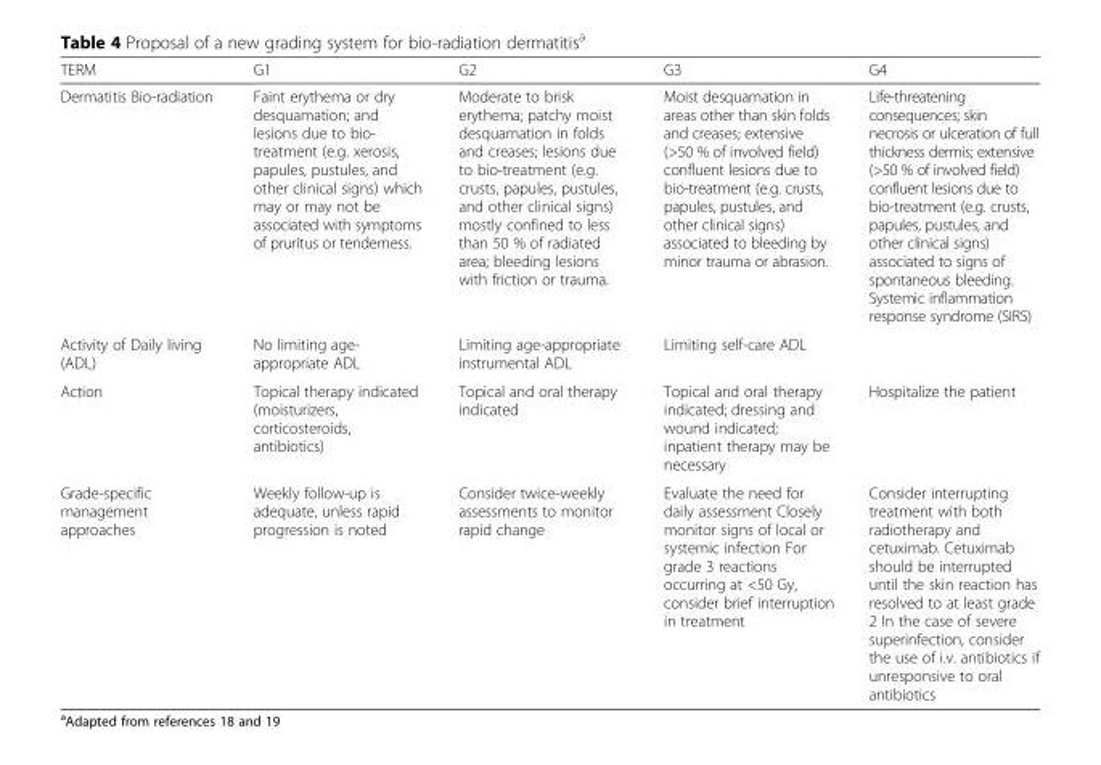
<table><thead><tr><td>TERM</td><td>G1</td><td>G2</td><td>G3</td><td>G4</td></tr></thead><tbody><tr><td>Dermatitis Bio-radiation</td><td>Faint erythema or dry desquamation; and lesions due to bio- treatment (e.g. xerosis, papules, pustules, and other clinical signs) which may or may not be associated with symptoms of pruritus or tenderness.</td><td>Moderate to brisk erythema; patchy moist desquamation in folds and creases; lesions due to bio-treatment (e.g. crusts, papules, pustules, and other clinical signs) mostly confined to less than 50 % of radiated area; bleeding lesions with friction or trauma.</td><td>Moist desquamation in areas other than skin folds and creases; extensive (&gt;50 % of involved field) confluent lesions due to bio-treatment (e.g. crusts, papules, pustules, and other clinical signs) associated to bleeding by minor trauma or abrasion.</td><td>Life-threatening consequences; skin necrosis or ulceration of full thickness dermis; extensive (&gt;50 % of involved field) confluent lesions due to bio-treatment (e.g. crusts, papules, pustules, and other clinical signs) associated to signs of spontaneous bleeding. Systemic inflammation response syndrome (SIRS)</td></tr><tr><td>Activity of Daily living (ADL)</td><td>No limiting age- appropriate ADL</td><td>Limiting age-appropriate instrumental ADL</td><td>Limiting self-care ADL</td><td></td></tr><tr><td>Action</td><td>Topical therapy indicated (moisturizers, corticosteroids, antibiotics)</td><td>Topical and oral therapy indicated</td><td>Topical and oral therapy indicated; dressing and wound indicated; inpatient therapy may be necessary</td><td>Hospitalize the patient</td></tr><tr><td>Grade-specific management approaches</td><td>Weekly follow-up is adequate, unless rapid progression is noted</td><td>Consider twice-weekly assessments to monitor rapid change</td><td>Evaluate the need for daily assessment Closely monitor signs of local or systemic infection For grade 3 reactions occurring at &lt;50 Gy, consider brief interruption in treatment</td><td>Consider interrupting treatment with both radiotherapy and cetuximab. Cetuximab should be interrupted until the skin reaction has resolved to at least grade 2 In the case of severe superinfection, consider the use of i.v. antibiotics if unresponsive to oral antibiotics</td></tr></tbody></table>